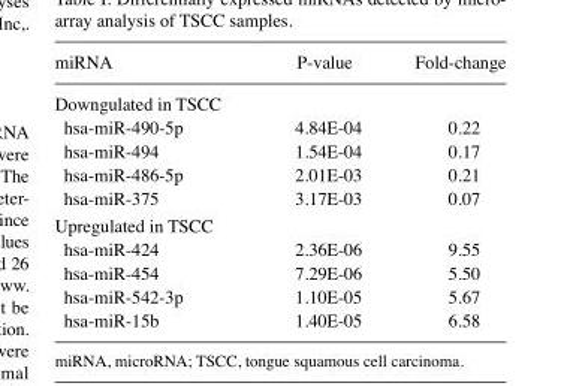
<table><thead><tr><td>miRNA</td><td>P-value</td><td>Fold-change</td></tr></thead><tbody><tr><td colspan="3">Downgulated in TSCC</td></tr><tr><td>hsa-miR-490-5p</td><td>4.84E-04</td><td>0.22</td></tr><tr><td>hsa-miR-494</td><td>1.54E-04</td><td>0.17</td></tr><tr><td>hsa-miR-486-5p</td><td>2.01E-03</td><td>0.21</td></tr><tr><td>hsa-miR-375</td><td>3.17E-03</td><td>0.07</td></tr><tr><td colspan="3">Upregulated in TSCC</td></tr><tr><td>hsa-miR-424</td><td>2.36E-06</td><td>9.55</td></tr><tr><td>hsa-miR-454</td><td>7.29E-06</td><td>5.50</td></tr><tr><td>hsa-miR-542-3p</td><td>1.10E-05</td><td>5.67</td></tr><tr><td>hsa-miR-15b</td><td>1.40E-05</td><td>6.58</td></tr></tbody></table>